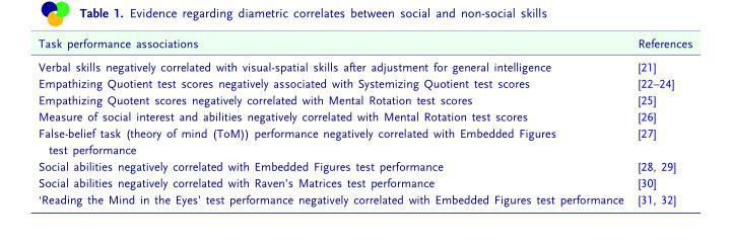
<table><thead><tr><td>Task performance associations</td><td>References</td></tr></thead><tbody><tr><td>Verbal skills negatively correlated with visual-spatial skills after adjustment for general intelligence</td><td>[21]</td></tr><tr><td>Empathizing Quotient test scores negatively associated with Systemizing Quotient test scores</td><td>[22–24]</td></tr><tr><td>Empathizing Quotent scores negatively correlated with Mental Rotation test scores</td><td>[25]</td></tr><tr><td>Measure of social interest and abilities negatively correlated with Mental Rotation test scores</td><td>[26]</td></tr><tr><td>False-belief task (theory of mind (ToM)) performance negatively correlated with Embedded Figures test performance</td><td>[27]</td></tr><tr><td>Social abilities negatively correlated with Embedded Figures test performance</td><td>[28, 29]</td></tr><tr><td>Social abilities negatively correlated with Raven’s Matrices test performance</td><td>[30]</td></tr><tr><td>‘Reading the Mind in the Eyes’ test performance negatively correlated with Embedded Figures test performance</td><td>[31, 32]</td></tr></tbody></table>